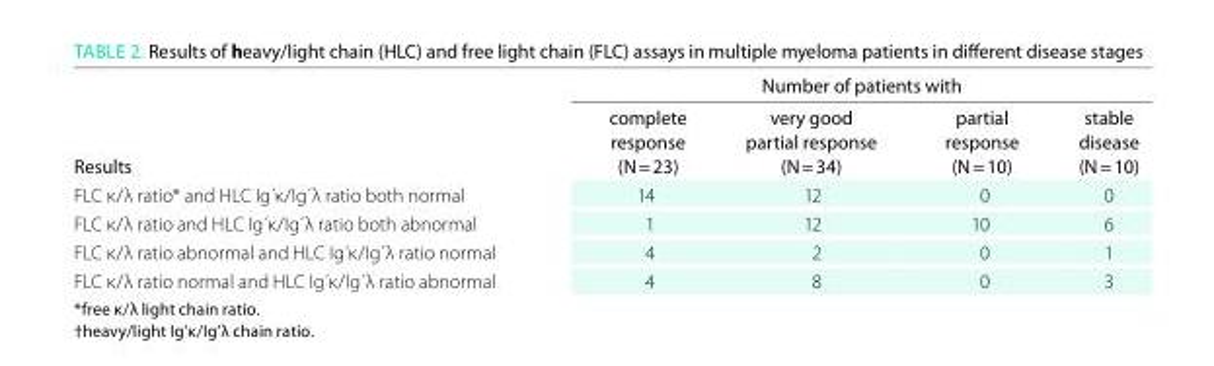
<table><thead><tr><td rowspan="2">Results</td><td colspan="4">Number of patients with</td></tr><tr><td>complete response (N = 23)</td><td>very good partial response (N = 34)</td><td>partial response (N = 10)</td><td>stable disease (N = 10)</td></tr></thead><tbody><tr><td>FLC κ/λ ratio* and HLC Ig´κ/Ig´λ ratio both normal</td><td>14</td><td>12</td><td>0</td><td>0</td></tr><tr><td>FLC κ/λ ratio and HLC Ig´κ/Ig´λ ratio both abnormal</td><td>1</td><td>12</td><td>10</td><td>6</td></tr><tr><td>FLC κ/λ ratio abnormal and HLC Ig´κ/Ig´λ ratio normal</td><td>4</td><td>2</td><td>0</td><td>1</td></tr><tr><td>FLC κ/λ ratio normal and HLC Ig´κ/Ig´λ ratio abnormal</td><td>4</td><td>8</td><td>0</td><td>3</td></tr></tbody></table>